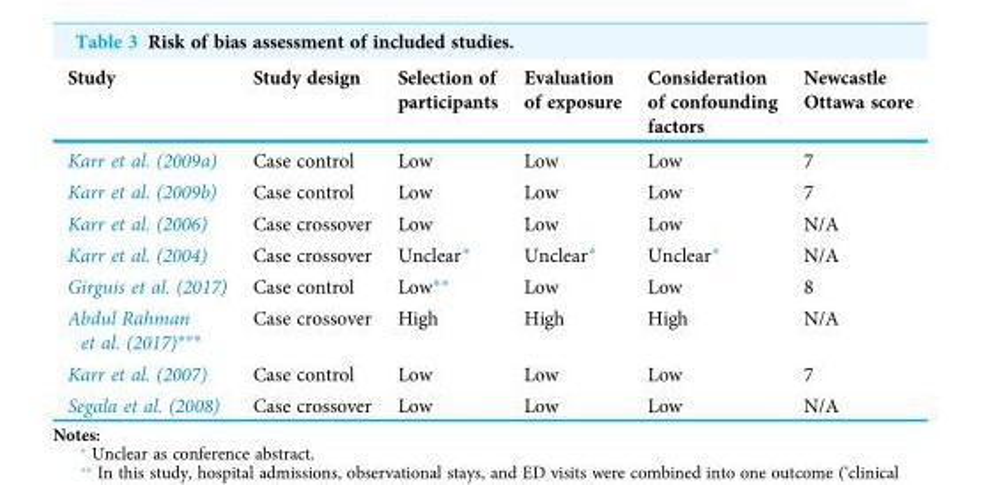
<table><thead><tr><td>Study</td><td>Study design</td><td>Selection of participants</td><td>Evaluation of exposure</td><td>Consideration of confounding factors</td><td>Newcastle Ottawa score</td></tr></thead><tbody><tr><td>Karr et al. (2009a)</td><td>Case control</td><td>Low</td><td>Low</td><td>Low</td><td>7</td></tr><tr><td>Karr et al. (2009b)</td><td>Case control</td><td>Low</td><td>Low</td><td>Low</td><td>7</td></tr><tr><td>Karr et al. (2006)</td><td>Case crossover</td><td>Low</td><td>Low</td><td>Low</td><td>N/A</td></tr><tr><td>Karr et al. (2004)</td><td>Case crossover</td><td>Unclear*</td><td>Unclear*</td><td>Unclear*</td><td>N/A</td></tr><tr><td>Girguis et al. (2017)</td><td>Case control</td><td>Low**</td><td>Low</td><td>Low</td><td>8</td></tr><tr><td>Abdul Rahman et al. (2017)***</td><td>Case crossover</td><td>High</td><td>High</td><td>High</td><td>N/A</td></tr><tr><td>Karr et al. (2007)</td><td>Case control</td><td>Low</td><td>Low</td><td>Low</td><td>7</td></tr><tr><td>Segala et al. (2008)</td><td>Case crossover</td><td>Low</td><td>Low</td><td>Low</td><td>N/A</td></tr></tbody></table>